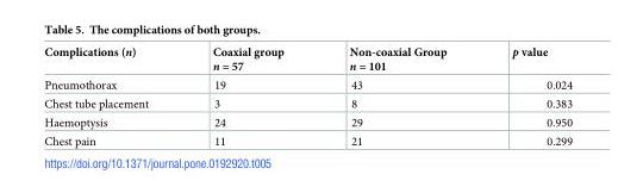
<table><thead><tr><td>Complications (n)</td><td>Coaxial group n = 57</td><td>Non-coaxial Group n = 101</td><td>p value</td></tr></thead><tbody><tr><td>Pneumothorax</td><td>19</td><td>43</td><td>0.024</td></tr><tr><td>Chest tube placement</td><td>3</td><td>8</td><td>0.383</td></tr><tr><td>Haemoptysis</td><td>24</td><td>29</td><td>0.950</td></tr><tr><td>Chest pain</td><td>11</td><td>21</td><td>0.299</td></tr></tbody></table>